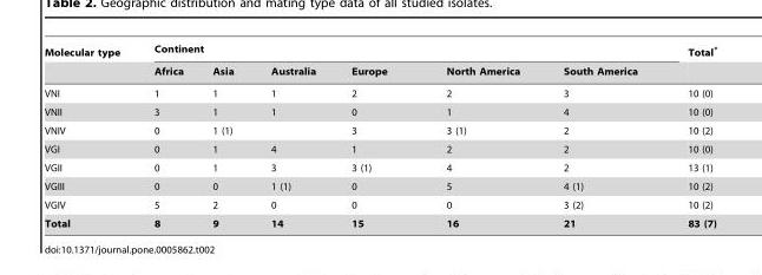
<table><thead><tr><td rowspan="2">Molecular type</td><td colspan="6">Continent</td><td rowspan="2">Total*</td></tr><tr><td>Africa</td><td>Asia</td><td>Australia</td><td>Europe</td><td>North America</td><td>South America</td></tr></thead><tbody><tr><td>VNI</td><td>1</td><td>1</td><td>1</td><td>2</td><td>2</td><td>3</td><td>10 (0)</td></tr><tr><td>VNII</td><td>3</td><td>1</td><td>1</td><td>0</td><td>1</td><td>4</td><td>10 (0)</td></tr><tr><td>VNIV</td><td>0</td><td>1 (1)</td><td></td><td>3</td><td>3 (1)</td><td>2</td><td>10 (2)</td></tr><tr><td>VGI</td><td>0</td><td>1</td><td>4</td><td>1</td><td>2</td><td>2</td><td>10 (0)</td></tr><tr><td>VGII</td><td>0</td><td>1</td><td>3</td><td>3 (1)</td><td>4</td><td>2</td><td>13 (1)</td></tr><tr><td>VGIII</td><td>0</td><td>0</td><td>1 (1)</td><td>0</td><td>5</td><td>4 (1)</td><td>10 (2)</td></tr><tr><td>VGIV</td><td>5</td><td>2</td><td>0</td><td>0</td><td>0</td><td>3 (2)</td><td>10 (2)</td></tr><tr><td>Total</td><td>8</td><td>9</td><td>14</td><td>15</td><td>16</td><td>21</td><td>83 (7)</td></tr></tbody></table>